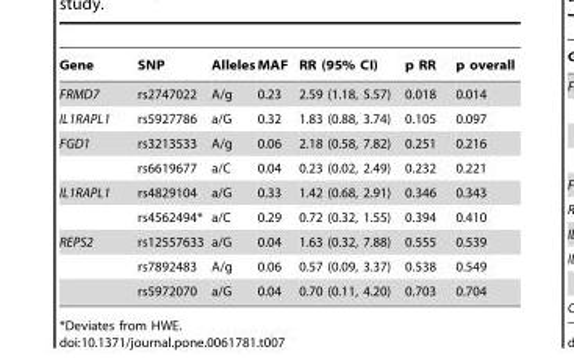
<table><thead><tr><td>Gene</td><td>SNP</td><td>Alleles</td><td>MAF</td><td>RR (95% CI)</td><td>p RR</td><td>p overall</td></tr></thead><tbody><tr><td>FRMD7</td><td>rs2747022</td><td>A/g</td><td>0.23</td><td>2.59 (1.18, 5.57)</td><td>0.018</td><td>0.014</td></tr><tr><td>IL1RAPL1</td><td>rs5927786</td><td>a/G</td><td>0.32</td><td>1.83 (0.88, 3.74)</td><td>0.105</td><td>0.097</td></tr><tr><td rowspan="2">FGD1</td><td>rs3213533</td><td>A/g</td><td>0.06</td><td>2.18 (0.58, 7.82)</td><td>0.251</td><td>0.216</td></tr><tr><td>rs6619677</td><td>a/C</td><td>0.04</td><td>0.23 (0.02, 2.49)</td><td>0.232</td><td>0.221</td></tr><tr><td rowspan="2">IL1RAPL1</td><td>rs4829104</td><td>a/G</td><td>0.33</td><td>1.42 (0.68, 2.91)</td><td>0.346</td><td>0.343</td></tr><tr><td>rs4562494*</td><td>a/C</td><td>0.29</td><td>0.72 (0.32, 1.55)</td><td>0.394</td><td>0.410</td></tr><tr><td rowspan="3">REPS2</td><td>rs12557633</td><td>a/G</td><td>0.04</td><td>1.63 (0.32, 7.88)</td><td>0.555</td><td>0.539</td></tr><tr><td>rs7892483</td><td>A/g</td><td>0.06</td><td>0.57 (0.09, 3.37)</td><td>0.538</td><td>0.549</td></tr><tr><td>rs5972070</td><td>a/G</td><td>0.04</td><td>0.70 (0.11, 4.20)</td><td>0.703</td><td>0.704</td></tr></tbody></table>